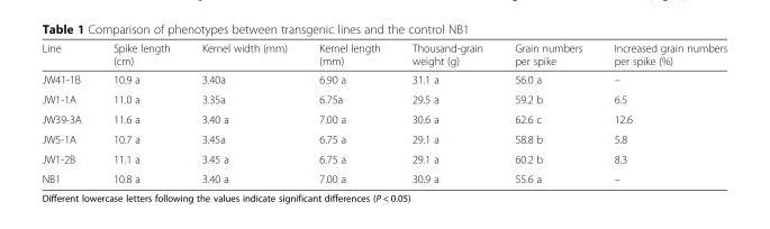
<table><thead><tr><td>Line</td><td>Spike length (cm)</td><td>Kernel width (mm)</td><td>Kernel length (mm)</td><td>Thousand-grain weight (g)</td><td>Grain numbers per spike</td><td>Increased grain numbers per spike (%)</td></tr></thead><tbody><tr><td>JW41-1B</td><td>10.9 a</td><td>3.40a</td><td>6.90 a</td><td>31.1 a</td><td>56.0 a</td><td>–</td></tr><tr><td>JW1-1A</td><td>11.0 a</td><td>3.35a</td><td>6.75a</td><td>29.5 a</td><td>59.2 b</td><td>6.5</td></tr><tr><td>JW39-3A</td><td>11.6 a</td><td>3.40 a</td><td>7.00 a</td><td>30.6 a</td><td>62.6 c</td><td>12.6</td></tr><tr><td>JW5-1A</td><td>10.7 a</td><td>3.45a</td><td>6.75 a</td><td>29.1 a</td><td>58.8 b</td><td>5.8</td></tr><tr><td>JW1-2B</td><td>11.1 a</td><td>3.45 a</td><td>6.75 a</td><td>29.1 a</td><td>60.2 b</td><td>8.3</td></tr><tr><td>NB1</td><td>10.8 a</td><td>3.40 a</td><td>7.00 a</td><td>30.9 a</td><td>55.6 a</td><td>–</td></tr></tbody></table>